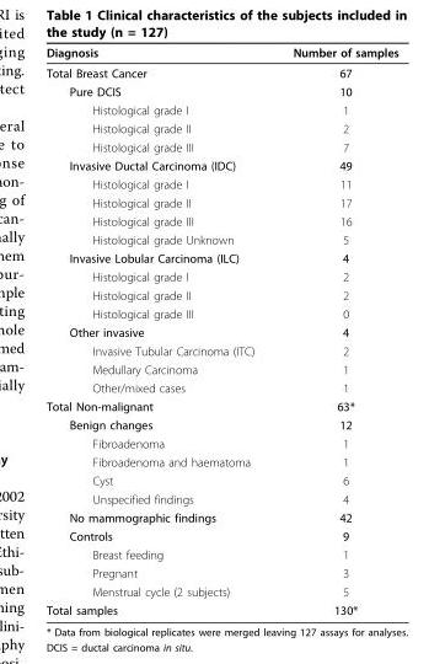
<table><thead><tr><td>Diagnosis</td><td>Number of samples</td></tr></thead><tbody><tr><td>Total Breast Cancer</td><td>67</td></tr><tr><td>Pure DCIS</td><td>10</td></tr><tr><td>Histological grade I</td><td>1</td></tr><tr><td>Histological grade II</td><td>2</td></tr><tr><td>Histological grade III</td><td>7</td></tr><tr><td>Invasive Ductal Carcinoma (IDC)</td><td>49</td></tr><tr><td>Histological grade I</td><td>11</td></tr><tr><td>Histological grade II</td><td>17</td></tr><tr><td>Histological grade III</td><td>16</td></tr><tr><td>Histological grade Unknown</td><td>5</td></tr><tr><td>Invasive Lobular Carcinoma (ILC)</td><td>4</td></tr><tr><td>Histological grade I</td><td>2</td></tr><tr><td>Histological grade II</td><td>2</td></tr><tr><td>Histological grade III</td><td>0</td></tr><tr><td>Other invasive</td><td>4</td></tr><tr><td>Invasive Tubular Carcinoma (ITC)</td><td>2</td></tr><tr><td>Medullary Carcinoma</td><td>1</td></tr><tr><td>Other/mixed cases</td><td>1</td></tr><tr><td>Total Non-malignant</td><td>63*</td></tr><tr><td>Benign changes</td><td>12</td></tr><tr><td>Fibroadenoma</td><td>1</td></tr><tr><td>Fibroadenoma and haematoma</td><td>1</td></tr><tr><td>Cyst</td><td>6</td></tr><tr><td>Unspecified findings</td><td>4</td></tr><tr><td>No mammographic findings</td><td>42</td></tr><tr><td>Controls</td><td>9</td></tr><tr><td>Breast feeding</td><td>1</td></tr><tr><td>Pregnant</td><td>3</td></tr><tr><td>Menstrual cycle (2 subjects)</td><td>5</td></tr><tr><td>Total samples</td><td>130*</td></tr></tbody></table>